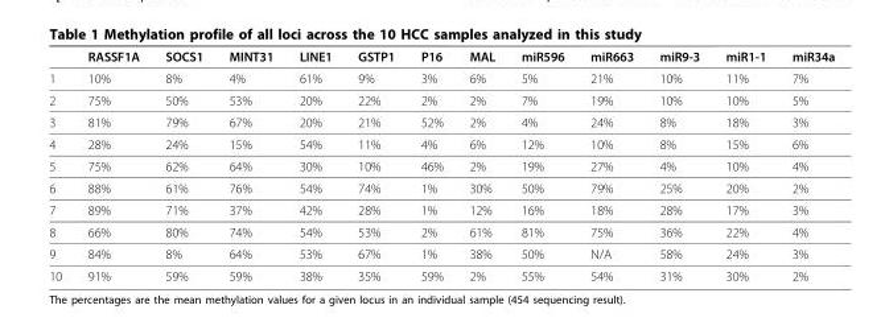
<table><thead><tr><td></td><td>RASSF1A</td><td>SOCS1</td><td>MINT31</td><td>LINE1</td><td>GSTP1</td><td>P16</td><td>MAL</td><td>miR596</td><td>miR663</td><td>miR9-3</td><td>miR1-1</td><td>miR34a</td></tr></thead><tbody><tr><td>1</td><td>10%</td><td>8%</td><td>4%</td><td>61%</td><td>9%</td><td>3%</td><td>6%</td><td>5%</td><td>21%</td><td>10%</td><td>11%</td><td>7%</td></tr><tr><td>2</td><td>75%</td><td>50%</td><td>53%</td><td>20%</td><td>22%</td><td>2%</td><td>2%</td><td>7%</td><td>19%</td><td>10%</td><td>10%</td><td>5%</td></tr><tr><td>3</td><td>81%</td><td>79%</td><td>67%</td><td>20%</td><td>21%</td><td>52%</td><td>2%</td><td>4%</td><td>24%</td><td>8%</td><td>18%</td><td>3%</td></tr><tr><td>4</td><td>28%</td><td>24%</td><td>15%</td><td>54%</td><td>11%</td><td>4%</td><td>6%</td><td>12%</td><td>10%</td><td>8%</td><td>15%</td><td>6%</td></tr><tr><td>5</td><td>75%</td><td>62%</td><td>64%</td><td>30%</td><td>10%</td><td>46%</td><td>2%</td><td>19%</td><td>27%</td><td>4%</td><td>10%</td><td>4%</td></tr><tr><td>6</td><td>88%</td><td>61%</td><td>76%</td><td>54%</td><td>74%</td><td>1%</td><td>30%</td><td>50%</td><td>79%</td><td>25%</td><td>20%</td><td>2%</td></tr><tr><td>7</td><td>89%</td><td>71%</td><td>37%</td><td>42%</td><td>28%</td><td>1%</td><td>12%</td><td>16%</td><td>18%</td><td>28%</td><td>17%</td><td>3%</td></tr><tr><td>8</td><td>66%</td><td>80%</td><td>74%</td><td>54%</td><td>53%</td><td>2%</td><td>61%</td><td>81%</td><td>75%</td><td>36%</td><td>22%</td><td>4%</td></tr><tr><td>9</td><td>84%</td><td>8%</td><td>64%</td><td>53%</td><td>67%</td><td>1%</td><td>38%</td><td>50%</td><td>N/A</td><td>58%</td><td>24%</td><td>3%</td></tr><tr><td>10</td><td>91%</td><td>59%</td><td>59%</td><td>38%</td><td>35%</td><td>59%</td><td>2%</td><td>55%</td><td>54%</td><td>31%</td><td>30%</td><td>2%</td></tr></tbody></table>